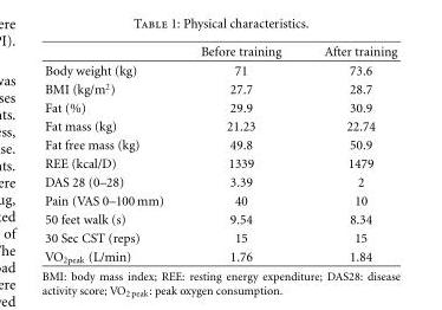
<table><thead><tr><td></td><td>Before training</td><td>After training</td></tr></thead><tbody><tr><td>Body weight (kg)</td><td>71</td><td>73.6</td></tr><tr><td>BMI (kg/m<sup>2</sup>)</td><td>27.7</td><td>28.7</td></tr><tr><td>Fat (%)</td><td>29.9</td><td>30.9</td></tr><tr><td>Fat mass (kg)</td><td>21.23</td><td>22.74</td></tr><tr><td>Fat free mass (kg)</td><td>49.8</td><td>50.9</td></tr><tr><td>REE (kcal/D)</td><td>1339</td><td>1479</td></tr><tr><td>DAS 28 (0–28)</td><td>3.39</td><td>2</td></tr><tr><td>Pain (VAS 0–100 mm)</td><td>40</td><td>10</td></tr><tr><td>50 feet walk (s)</td><td>9.54</td><td>8.34</td></tr><tr><td>30 Sec CST (reps)</td><td>15</td><td>15</td></tr><tr><td>VO<sub>2peak</sub> (L/min)</td><td>1.76</td><td>1.84</td></tr></tbody></table>